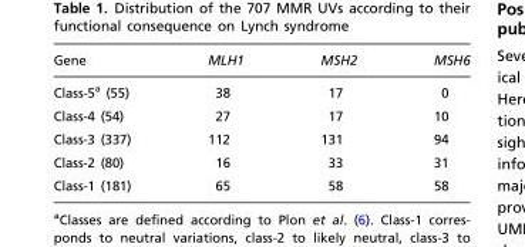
<table><thead><tr><td>Gene</td><td>MLH1</td><td>MSH2</td><td>MSH6</td></tr></thead><tbody><tr><td>Class-5<sup>a</sup> (55)</td><td>38</td><td>17</td><td>0</td></tr><tr><td>Class-4 (54)</td><td>27</td><td>17</td><td>10</td></tr><tr><td>Class-3 (337)</td><td>112</td><td>131</td><td>94</td></tr><tr><td>Class-2 (80)</td><td>16</td><td>33</td><td>31</td></tr><tr><td>Class-1 (181)</td><td>65</td><td>58</td><td>58</td></tr></tbody></table>